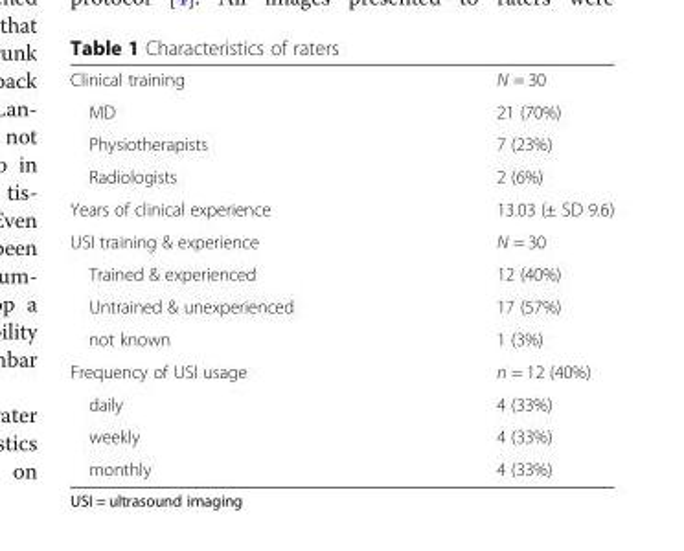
<table><tbody><tr><td>Clinical training</td><td>N = 30</td></tr><tr><td>MD</td><td>21 (70%)</td></tr><tr><td>Physiotherapists</td><td>7 (23%)</td></tr><tr><td>Radiologists</td><td>2 (6%)</td></tr><tr><td>Years of clinical experience</td><td>13.03 (± SD 9.6)</td></tr><tr><td>USI training &amp; experience</td><td>N = 30</td></tr><tr><td>Trained &amp; experienced</td><td>12 (40%)</td></tr><tr><td>Untrained &amp; unexperienced</td><td>17 (57%)</td></tr><tr><td>not known</td><td>1 (3%)</td></tr><tr><td>Frequency of USI usage</td><td>n = 12 (40%)</td></tr><tr><td>daily</td><td>4 (33%)</td></tr><tr><td>weekly</td><td>4 (33%)</td></tr><tr><td>monthly</td><td>4 (33%)</td></tr></tbody></table>